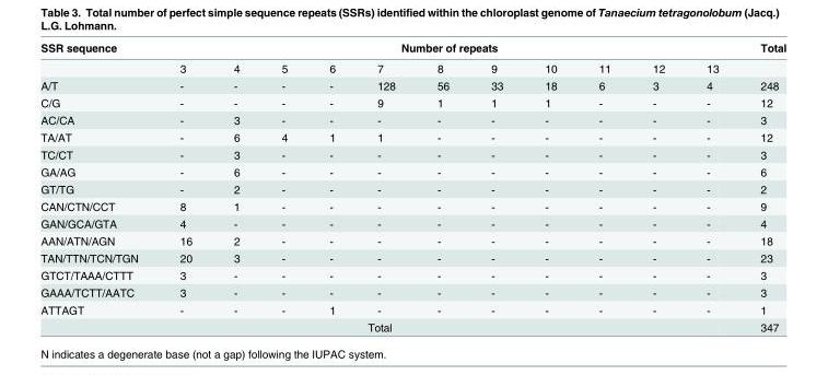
<table><thead><tr><td rowspan="2">SSR sequence</td><td colspan="11">Number of repeats</td><td rowspan="2">Total</td></tr><tr><td>3</td><td>4</td><td>5</td><td>6</td><td>7</td><td>8</td><td>9</td><td>10</td><td>11</td><td>12</td><td>13</td></tr></thead><tbody><tr><td>A/T</td><td>-</td><td>-</td><td>-</td><td>-</td><td>128</td><td>56</td><td>33</td><td>18</td><td>6</td><td>3</td><td>4</td><td>248</td></tr><tr><td>C/G</td><td>-</td><td>-</td><td>-</td><td>-</td><td>9</td><td>1</td><td>1</td><td>1</td><td>-</td><td>-</td><td>-</td><td>12</td></tr><tr><td>AC/CA</td><td>-</td><td>3</td><td>-</td><td>-</td><td>-</td><td>-</td><td>-</td><td>-</td><td>-</td><td>-</td><td>-</td><td>3</td></tr><tr><td>TA/AT</td><td>-</td><td>6</td><td>4</td><td>1</td><td>1</td><td>-</td><td>-</td><td>-</td><td>-</td><td>-</td><td>-</td><td>12</td></tr><tr><td>TC/CT</td><td>-</td><td>3</td><td>-</td><td>-</td><td>-</td><td>-</td><td>-</td><td>-</td><td>-</td><td>-</td><td>-</td><td>3</td></tr><tr><td>GA/AG</td><td>-</td><td>6</td><td>-</td><td>-</td><td>-</td><td>-</td><td>-</td><td>-</td><td>-</td><td>-</td><td>-</td><td>6</td></tr><tr><td>GT/TG</td><td>-</td><td>2</td><td>-</td><td>-</td><td>-</td><td>-</td><td>-</td><td>-</td><td>-</td><td>-</td><td>-</td><td>2</td></tr><tr><td>CAN/CTN/CCT</td><td>8</td><td>1</td><td>-</td><td>-</td><td>-</td><td>-</td><td>-</td><td>-</td><td>-</td><td>-</td><td>-</td><td>9</td></tr><tr><td>GAN/GCA/GTA</td><td>4</td><td>-</td><td>-</td><td>-</td><td>-</td><td>-</td><td>-</td><td>-</td><td>-</td><td>-</td><td>-</td><td>4</td></tr><tr><td>AAN/ATN/AGN</td><td>16</td><td>2</td><td>-</td><td>-</td><td>-</td><td>-</td><td>-</td><td>-</td><td>-</td><td>-</td><td>-</td><td>18</td></tr><tr><td>TAN/TTN/TCN/TGN</td><td>20</td><td>3</td><td>-</td><td>-</td><td>-</td><td>-</td><td>-</td><td>-</td><td>-</td><td>-</td><td>-</td><td>23</td></tr><tr><td>GTCT/TAAA/CTTT</td><td>3</td><td>-</td><td>-</td><td>-</td><td>-</td><td>-</td><td>-</td><td>-</td><td>-</td><td>-</td><td>-</td><td>3</td></tr><tr><td>GAAA/TCTT/AATC</td><td>3</td><td>-</td><td>-</td><td>-</td><td>-</td><td>-</td><td>-</td><td>-</td><td>-</td><td>-</td><td>-</td><td>3</td></tr><tr><td>ATTAGT</td><td>-</td><td>-</td><td>-</td><td>1</td><td>-</td><td>-</td><td>-</td><td>-</td><td>-</td><td>-</td><td>-</td><td>1</td></tr><tr><td colspan="12">Total</td><td>347</td></tr></tbody></table>